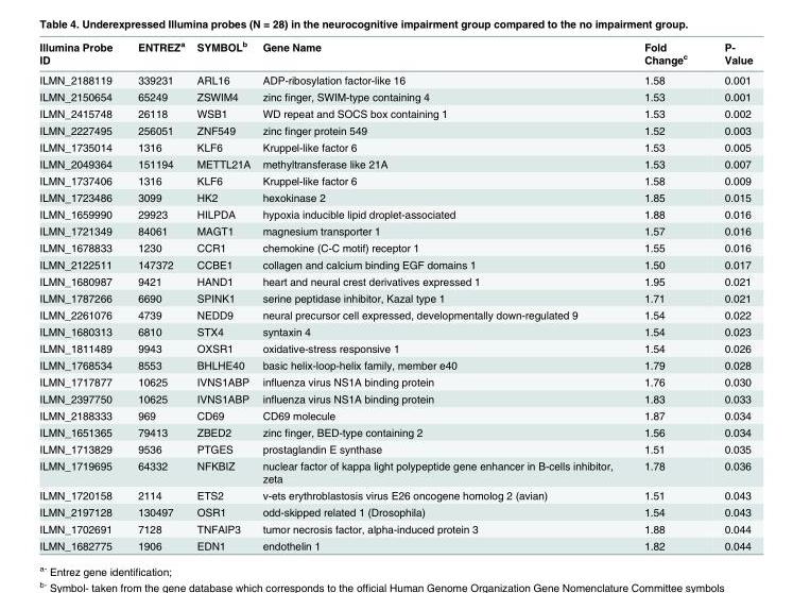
<table><thead><tr><td>Illumina Probe ID</td><td>ENTREZ<sup>a</sup></td><td>SYMBOL<sup>b</sup></td><td>Gene Name</td><td>Fold Change<sup>c</sup></td><td>P- Value</td></tr></thead><tbody><tr><td>ILMN_2188119</td><td>339231</td><td>ARL16</td><td>ADP-ribosylation factor-like 16</td><td>1.58</td><td>0.001</td></tr><tr><td>ILMN_2150654</td><td>65249</td><td>ZSWIM4</td><td>zinc finger, SWIM-type containing 4</td><td>1.53</td><td>0.001</td></tr><tr><td>ILMN_2415748</td><td>26118</td><td>WSB1</td><td>WD repeat and SOCS box containing 1</td><td>1.53</td><td>0.002</td></tr><tr><td>ILMN_2227495</td><td>256051</td><td>ZNF549</td><td>zinc finger protein 549</td><td>1.52</td><td>0.003</td></tr><tr><td>ILMN_1735014</td><td>1316</td><td>KLF6</td><td>Kruppel-like factor 6</td><td>1.53</td><td>0.005</td></tr><tr><td>ILMN_2049364</td><td>151194</td><td>METTL21A</td><td>methyltransferase like 21A</td><td>1.53</td><td>0.007</td></tr><tr><td>ILMN_1737406</td><td>1316</td><td>KLF6</td><td>Kruppel-like factor 6</td><td>1.58</td><td>0.009</td></tr><tr><td>ILMN_1723486</td><td>3099</td><td>HK2</td><td>hexokinase 2</td><td>1.85</td><td>0.015</td></tr><tr><td>ILMN_1659990</td><td>29923</td><td>HILPDA</td><td>hypoxia inducible lipid droplet-associated</td><td>1.88</td><td>0.016</td></tr><tr><td>ILMN_1721349</td><td>84061</td><td>MAGT1</td><td>magnesium transporter 1</td><td>1.57</td><td>0.016</td></tr><tr><td>ILMN_1678833</td><td>1230</td><td>CCR1</td><td>chemokine (C-C motif) receptor 1</td><td>1.55</td><td>0.016</td></tr><tr><td>ILMN_2122511</td><td>147372</td><td>CCBE1</td><td>collagen and calcium binding EGF domains 1</td><td>1.50</td><td>0.017</td></tr><tr><td>ILMN_1680987</td><td>9421</td><td>HAND1</td><td>heart and neural crest derivatives expressed 1</td><td>1.95</td><td>0.021</td></tr><tr><td>ILMN_1787266</td><td>6690</td><td>SPINK1</td><td>serine peptidase inhibitor, Kazal type 1</td><td>1.71</td><td>0.021</td></tr><tr><td>ILMN_2261076</td><td>4739</td><td>NEDD9</td><td>neural precursor cell expressed, developmentally down-regulated 9</td><td>1.54</td><td>0.022</td></tr><tr><td>ILMN_1680313</td><td>6810</td><td>STX4</td><td>syntaxin 4</td><td>1.54</td><td>0.023</td></tr><tr><td>ILMN_1811489</td><td>9943</td><td>OXSR1</td><td>oxidative-stress responsive 1</td><td>1.54</td><td>0.026</td></tr><tr><td>ILMN_1768534</td><td>8553</td><td>BHLHE40</td><td>basic helix-loop-helix family, member e40</td><td>1.79</td><td>0.028</td></tr><tr><td>ILMN_1717877</td><td>10625</td><td>IVNS1ABP</td><td>influenza virus NS1A binding protein</td><td>1.76</td><td>0.030</td></tr><tr><td>ILMN_2397750</td><td>10625</td><td>IVNS1ABP</td><td>influenza virus NS1A binding protein</td><td>1.83</td><td>0.033</td></tr><tr><td>ILMN_2188333</td><td>969</td><td>CD69</td><td>CD69 molecule</td><td>1.87</td><td>0.034</td></tr><tr><td>ILMN_1651365</td><td>79413</td><td>ZBED2</td><td>zinc finger, BED-type containing 2</td><td>1.56</td><td>0.034</td></tr><tr><td>ILMN_1713829</td><td>9536</td><td>PTGES</td><td>prostaglandin E synthase</td><td>1.51</td><td>0.035</td></tr><tr><td>ILMN_1719695</td><td>64332</td><td>NFKBIZ</td><td>nuclear factor of kappa light polypeptide gene enhancer in B-cells inhibitor, zeta</td><td>1.78</td><td>0.036</td></tr><tr><td>ILMN_1720158</td><td>2114</td><td>ETS2</td><td>v-ets erythroblastosis virus E26 oncogene homolog 2 (avian)</td><td>1.51</td><td>0.043</td></tr><tr><td>ILMN_2197128</td><td>130497</td><td>OSR1</td><td>odd-skipped related 1 (Drosophila)</td><td>1.54</td><td>0.043</td></tr><tr><td>ILMN_1702691</td><td>7128</td><td>TNFAIP3</td><td>tumor necrosis factor, alpha-induced protein 3</td><td>1.88</td><td>0.044</td></tr><tr><td>ILMN_1682775</td><td>1906</td><td>EDN1</td><td>endothelin 1</td><td>1.82</td><td>0.044</td></tr></tbody></table>